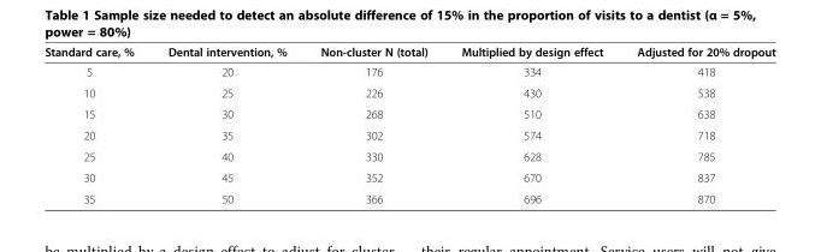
<table><thead><tr><td>Standard care, %</td><td>Dental intervention, %</td><td>Non-cluster N (total)</td><td>Multiplied by design effect</td><td>Adjusted for 20% dropout</td></tr></thead><tbody><tr><td>5</td><td>20</td><td>176</td><td>334</td><td>418</td></tr><tr><td>10</td><td>25</td><td>226</td><td>430</td><td>538</td></tr><tr><td>15</td><td>30</td><td>268</td><td>510</td><td>638</td></tr><tr><td>20</td><td>35</td><td>302</td><td>574</td><td>718</td></tr><tr><td>25</td><td>40</td><td>330</td><td>628</td><td>785</td></tr><tr><td>30</td><td>45</td><td>352</td><td>670</td><td>837</td></tr><tr><td>35</td><td>50</td><td>366</td><td>696</td><td>870</td></tr></tbody></table>